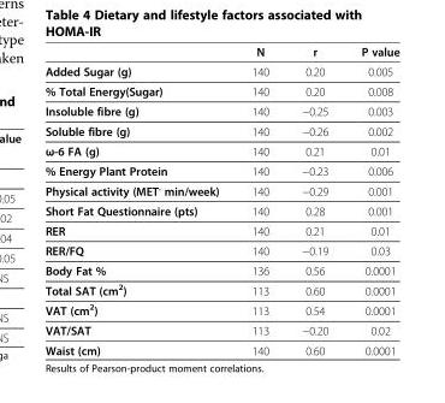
<table><thead><tr><td></td><td>N</td><td>r</td><td>P value</td></tr></thead><tbody><tr><td>Added Sugar (g)</td><td>140</td><td>0.20</td><td>0.005</td></tr><tr><td>% Total Energy(Sugar)</td><td>140</td><td>0.20</td><td>0.008</td></tr><tr><td>Insoluble fibre (g)</td><td>140</td><td>−0.25</td><td>0.003</td></tr><tr><td>Soluble fibre (g)</td><td>140</td><td>−0.26</td><td>0.002</td></tr><tr><td>ω-6 FA (g)</td><td>140</td><td>0.21</td><td>0.01</td></tr><tr><td>% Energy Plant Protein</td><td>140</td><td>−0.23</td><td>0.006</td></tr><tr><td>Physical activity (MET<sup>.</sup> min/week)</td><td>140</td><td>−0.29</td><td>0.001</td></tr><tr><td>Short Fat Questionnaire (pts)</td><td>140</td><td>0.28</td><td>0.001</td></tr><tr><td>RER</td><td>140</td><td>0.21</td><td>0.01</td></tr><tr><td>RER/FQ</td><td>140</td><td>−0.19</td><td>0.03</td></tr><tr><td>Body Fat %</td><td>136</td><td>0.56</td><td>0.0001</td></tr><tr><td>Total SAT (cm<sup>2</sup>)</td><td>113</td><td>0.60</td><td>0.0001</td></tr><tr><td>VAT (cm<sup>2</sup>)</td><td>113</td><td>0.54</td><td>0.0001</td></tr><tr><td>VAT/SAT</td><td>113</td><td>−0.20</td><td>0.02</td></tr><tr><td>Waist (cm)</td><td>140</td><td>0.60</td><td>0.0001</td></tr></tbody></table>